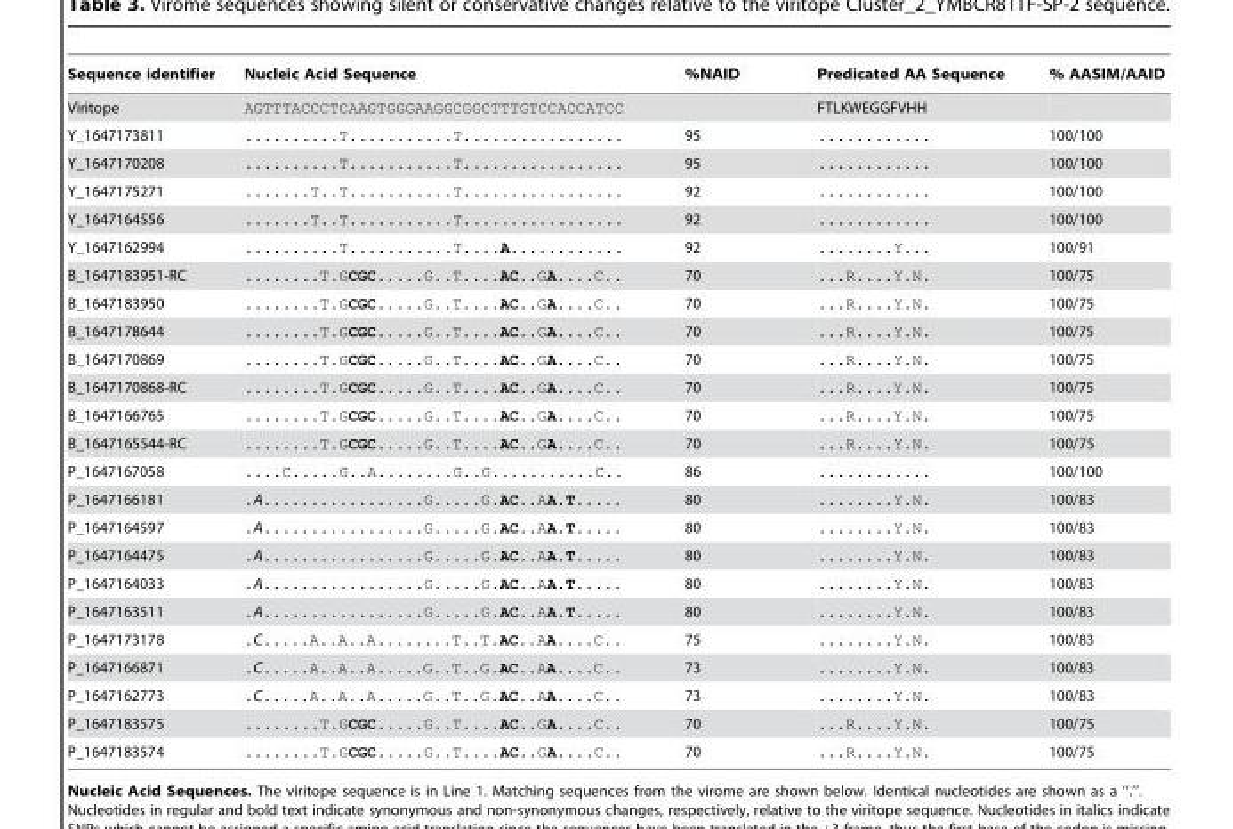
<table><thead><tr><td>Sequence identifier</td><td>Nucleic Acid Sequence</td><td>%NAID</td><td>Predicated AA Sequence</td><td>% AASIM/AAID</td></tr></thead><tbody><tr><td>Viritope</td><td>AGTTTACCCTCAAGTGGGAAGGCGGCTTTGTCCACCATCC</td><td></td><td>FTLKWEGGFVHH</td><td></td></tr><tr><td>Y_1647173811</td><td>..........T...........T.................</td><td>95</td><td>............</td><td>100/100</td></tr><tr><td>Y_1647170208</td><td>..........T...........T.................</td><td>95</td><td>............</td><td>100/100</td></tr><tr><td>Y_1647175271</td><td>.......T..T...........T.................</td><td>92</td><td>............</td><td>100/100</td></tr><tr><td>Y_1647164556</td><td>.......T..T...........T.................</td><td>92</td><td>............</td><td>100/100</td></tr><tr><td>Y_1647162994</td><td>..........T...........T....A............</td><td>92</td><td>........Y...</td><td>100/91</td></tr><tr><td>B_1647183951-RC</td><td>........T.GCGC.....G..T....AC..GA....C..</td><td>70</td><td>...R....Y.N.</td><td>100/75</td></tr><tr><td>B_1647183950</td><td>........T.GCGC.....G..T....AC..GA....C..</td><td>70</td><td>...R....Y.N.</td><td>100/75</td></tr><tr><td>B_1647178644</td><td>........T.GCGC.....G..T....AC..GA....C..</td><td>70</td><td>...R....Y.N.</td><td>100/75</td></tr><tr><td>B_1647170869</td><td>........T.GCGC.....G..T....AC..GA....C..</td><td>70</td><td>...R....Y.N.</td><td>100/75</td></tr><tr><td>B_1647170868-RC</td><td>........T.GCGC.....G..T....AC..GA....C..</td><td>70</td><td>...R....Y.N.</td><td>100/75</td></tr><tr><td>B_1647166765</td><td>........T.GCGC.....G..T....AC..GA....C..</td><td>70</td><td>...R....Y.N.</td><td>100/75</td></tr><tr><td>B_1647165544-RC</td><td>........T.GCGC.....G..T....AC..GA....C..</td><td>70</td><td>...R....Y.N.</td><td>100/75</td></tr><tr><td>P_1647167058</td><td>....C.....G..A........G..G...........C..</td><td>86</td><td>............</td><td>100/100</td></tr><tr><td>P_1647166181</td><td>.A.................G.....G.AC..AA.T.....</td><td>80</td><td>........Y.N.</td><td>100/83</td></tr><tr><td>P_1647164597</td><td>.A.................G.....G.AC..AA.T.....</td><td>80</td><td>........Y.N.</td><td>100/83</td></tr><tr><td>P_1647164475</td><td>.A.................G.....G.AC..AA.T.....</td><td>80</td><td>........Y.N.</td><td>100/83</td></tr><tr><td>P_1647164033</td><td>.A.................G.....G.AC..AA.T.....</td><td>80</td><td>........Y.N.</td><td>100/83</td></tr><tr><td>P_1647163511</td><td>.A.................G.....G.AC..AA.T.....</td><td>80</td><td>........Y.N.</td><td>100/83</td></tr><tr><td>P_1647173178</td><td>.C.....A..A..A........T..T.AC..AA....C..</td><td>75</td><td>........Y.N.</td><td>100/83</td></tr><tr><td>P_1647166871</td><td>.C.....A..A..A.....G..T..G.AC..AA....C..</td><td>73</td><td>........Y.N.</td><td>100/83</td></tr><tr><td>P_1647162773</td><td>.C.....A..A..A.....G..T..G.AC..AA....C..</td><td>73</td><td>........Y.N.</td><td>100/83</td></tr><tr><td>P_1647183575</td><td>........T.GCGC.....G..T....AC..GA....C..</td><td>70</td><td>...R....Y.N.</td><td>100/75</td></tr><tr><td>P_1647183574</td><td>........T.GCGC.....G..T....AC..GA....C..</td><td>70</td><td>...R....Y.N.</td><td>100/75</td></tr></tbody></table>